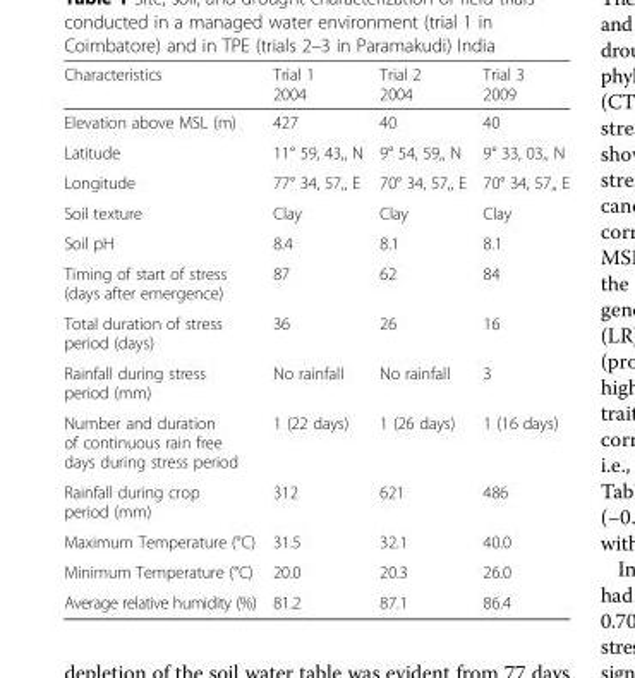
<table><thead><tr><td>Characteristics</td><td>Trial 1 2004</td><td>Trial 2 2004</td><td>Trial 3 2009</td></tr></thead><tbody><tr><td>Elevation above MSL (m)</td><td>427</td><td>40</td><td>40</td></tr><tr><td>Latitude</td><td>11° 59, 43,, N</td><td>9° 54, 59,, N</td><td>9° 33, 03,, N</td></tr><tr><td>Longitude</td><td>77° 34, 57,, E</td><td>70° 34, 57,, E</td><td>70° 34, 57,, E</td></tr><tr><td>Soil texture</td><td>Clay</td><td>Clay</td><td>Clay</td></tr><tr><td>Soil pH</td><td>8.4</td><td>8.1</td><td>8.1</td></tr><tr><td>Timing of start of stress (days after emergence)</td><td>87</td><td>62</td><td>84</td></tr><tr><td>Total duration of stress period (days)</td><td>36</td><td>26</td><td>16</td></tr><tr><td>Rainfall during stress period (mm)</td><td>No rainfall</td><td>No rainfall</td><td>3</td></tr><tr><td>Number and duration of continuous rain free days during stress period</td><td>1 (22 days)</td><td>1 (26 days)</td><td>1 (16 days)</td></tr><tr><td>Rainfall during crop period (mm)</td><td>312</td><td>621</td><td>486</td></tr><tr><td>Maximum Temperature (°C)</td><td>31.5</td><td>32.1</td><td>40.0</td></tr><tr><td>Minimum Temperature (°C)</td><td>20.0</td><td>20.3</td><td>26.0</td></tr><tr><td>Average relative humidity (%)</td><td>81.2</td><td>87.1</td><td>86.4</td></tr></tbody></table>